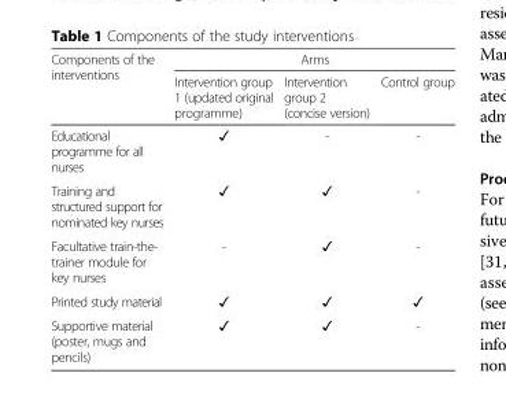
<table><thead><tr><td rowspan="2">Components of the interventions</td><td colspan="3">Arms</td></tr><tr><td>Intervention group 1 (updated original programme)</td><td>Intervention group 2 (concise version)</td><td>Control group</td></tr></thead><tbody><tr><td>Educational programme for all nurses</td><td>✓</td><td>-</td><td>-</td></tr><tr><td>Training and structured support for nominated key nurses</td><td>✓</td><td>✓</td><td>-</td></tr><tr><td>Facultative train-the- trainer module for key nurses</td><td>-</td><td>✓</td><td>-</td></tr><tr><td>Printed study material</td><td>✓</td><td>✓</td><td>✓</td></tr><tr><td>Supportive material (poster, mugs and pencils)</td><td>✓</td><td>✓</td><td>-</td></tr></tbody></table>